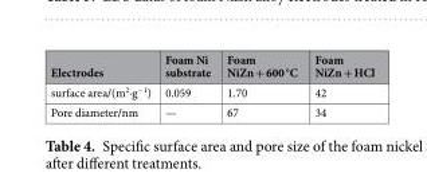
<table><thead><tr><td>Electrodes</td><td>Foam Ni substrate</td><td>Foam NiZn + 600 °C</td><td>Foam NiZn + HCl</td></tr></thead><tbody><tr><td>surface area/(m<sup>2</sup>·g<sup>−1</sup>)</td><td>0.059</td><td>1.70</td><td>42</td></tr><tr><td>Pore diameter/nm</td><td>—</td><td>67</td><td>34</td></tr></tbody></table>